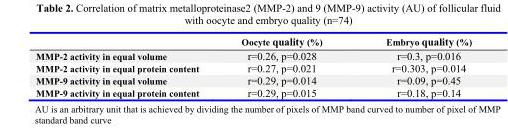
<table><thead><tr><td></td><td>Oocyte quality (%)</td><td>Embryo quality (%)</td></tr></thead><tbody><tr><td>MMP-2 activity in equal volume</td><td>r=0.26, p=0.028</td><td>r=0.3, p=0.016</td></tr><tr><td>MMP-2 activity in equal protein content</td><td>r=0.27, p=0.021</td><td>r=0.303, p=0.014</td></tr><tr><td>MMP-9 activity in equal volume</td><td>r=0.29, p=0.014</td><td>r=0.09, p=0.45</td></tr><tr><td>MMP-9 activity in equal protein content</td><td>r=0.29, p=0.015</td><td>r=0.18, p=0.14</td></tr></tbody></table>